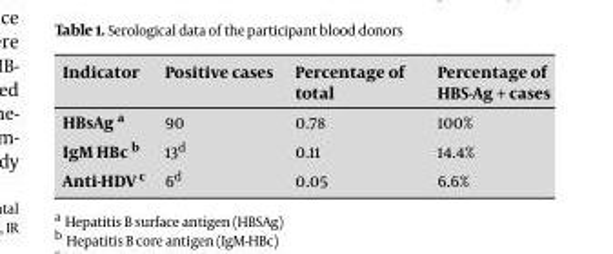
<table><thead><tr><td>Indicator</td><td>Positive cases</td><td>Percentage of total</td><td>Percentage of HBS-Ag + cases</td></tr></thead><tbody><tr><td>HBsAg a</td><td>90</td><td>0.78</td><td>100%</td></tr><tr><td>IgM HBc b</td><td>13<sup>d</sup></td><td>0.11</td><td>14.4%</td></tr><tr><td>Anti-HDV c</td><td>6d</td><td>0.05</td><td>6.6%</td></tr></tbody></table>